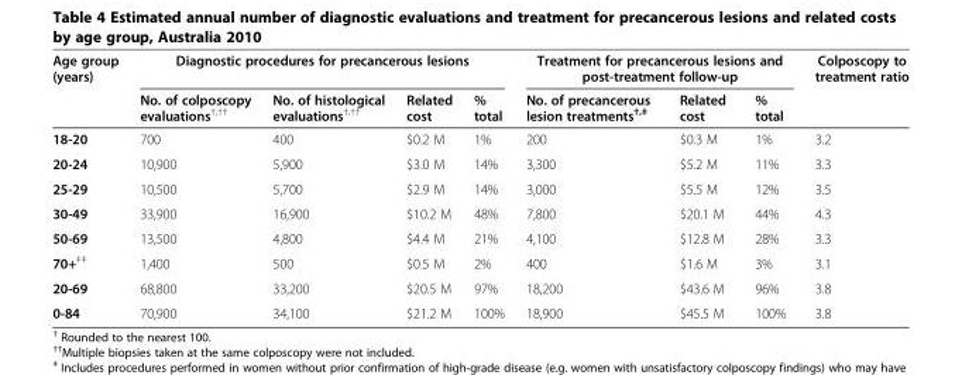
<table><thead><tr><td rowspan="2">Age group (years)</td><td colspan="4">Diagnostic procedures for precancerous lesions</td><td colspan="3">Treatment for precancerous lesions and post-treatment follow-up</td><td rowspan="2">Colposcopy to treatment ratio</td></tr><tr><td>No. of colposcopy evaluations<sup>†,††</sup></td><td>No. of histological evaluations<sup>†,††</sup></td><td>Related cost</td><td>% total</td><td>No. of precancerous lesion treatments<sup>†,‡</sup></td><td>Related cost</td><td>% total</td></tr></thead><tbody><tr><td>18-20</td><td>700</td><td>400</td><td>$0.2 M</td><td>1%</td><td>200</td><td>$0.3 M</td><td>1%</td><td>3.2</td></tr><tr><td>20-24</td><td>10,900</td><td>5,900</td><td>$3.0 M</td><td>14%</td><td>3,300</td><td>$5.2 M</td><td>11%</td><td>3.3</td></tr><tr><td>25-29</td><td>10,500</td><td>5,700</td><td>$2.9 M</td><td>14%</td><td>3,000</td><td>$5.5 M</td><td>12%</td><td>3.5</td></tr><tr><td>30-49</td><td>33,900</td><td>16,900</td><td>$10.2 M</td><td>48%</td><td>7,800</td><td>$20.1 M</td><td>44%</td><td>4.3</td></tr><tr><td>50-69</td><td>13,500</td><td>4,800</td><td>$4.4 M</td><td>21%</td><td>4,100</td><td>$12.8 M</td><td>28%</td><td>3.3</td></tr><tr><td>70+<sup>‡‡</sup></td><td>1,400</td><td>500</td><td>$0.5 M</td><td>2%</td><td>400</td><td>$1.6 M</td><td>3%</td><td>3.1</td></tr><tr><td>20-69</td><td>68,800</td><td>33,200</td><td>$20.5 M</td><td>97%</td><td>18,200</td><td>$43.6 M</td><td>96%</td><td>3.8</td></tr><tr><td>0-84</td><td>70,900</td><td>34,100</td><td>$21.2 M</td><td>100%</td><td>18,900</td><td>$45.5 M</td><td>100%</td><td>3.8</td></tr></tbody></table>